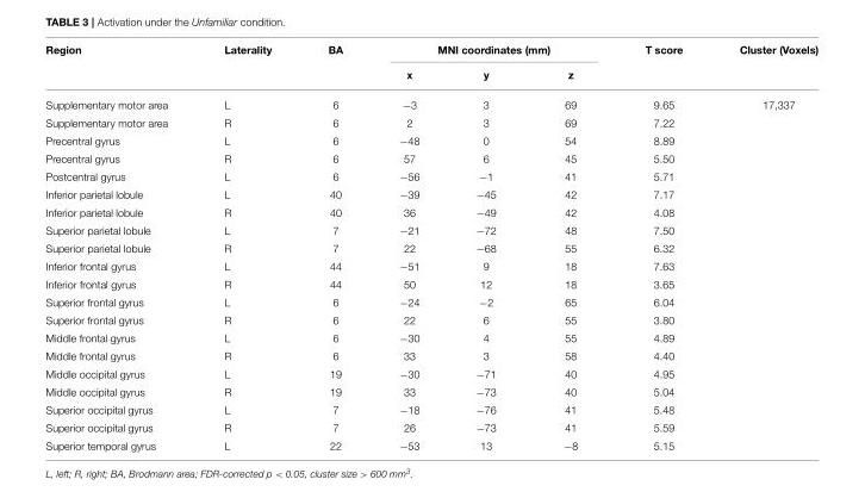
<table><thead><tr><td rowspan="2">Region</td><td rowspan="2">Laterality</td><td rowspan="2">BA</td><td colspan="3">MNI coordinates (mm)</td><td rowspan="2">T score</td><td rowspan="2">Cluster (Voxels)</td></tr><tr><td>x</td><td>y</td><td>z</td></tr></thead><tbody><tr><td>Supplementary motor area</td><td>L</td><td>6</td><td>−3</td><td>3</td><td>69</td><td>9.65</td><td>17,337</td></tr><tr><td>Supplementary motor area</td><td>R</td><td>6</td><td>2</td><td>3</td><td>69</td><td>7.22</td><td></td></tr><tr><td>Precentral gyrus</td><td>L</td><td>6</td><td>−48</td><td>0</td><td>54</td><td>8.89</td><td></td></tr><tr><td>Precentral gyrus</td><td>R</td><td>6</td><td>57</td><td>6</td><td>45</td><td>5.50</td><td></td></tr><tr><td>Postcentral gyrus</td><td>L</td><td>6</td><td>−56</td><td>−1</td><td>41</td><td>5.71</td><td></td></tr><tr><td>Inferior parietal lobule</td><td>L</td><td>40</td><td>−39</td><td>−45</td><td>42</td><td>7.17</td><td></td></tr><tr><td>Inferior parietal lobule</td><td>R</td><td>40</td><td>36</td><td>−49</td><td>42</td><td>4.08</td><td></td></tr><tr><td>Superior parietal lobule</td><td>L</td><td>7</td><td>−21</td><td>−72</td><td>48</td><td>7.50</td><td></td></tr><tr><td>Superior parietal lobule</td><td>R</td><td>7</td><td>22</td><td>−68</td><td>55</td><td>6.32</td><td></td></tr><tr><td>Inferior frontal gyrus</td><td>L</td><td>44</td><td>−51</td><td>9</td><td>18</td><td>7.63</td><td></td></tr><tr><td>Inferior frontal gyrus</td><td>R</td><td>44</td><td>50</td><td>12</td><td>18</td><td>3.65</td><td></td></tr><tr><td>Superior frontal gyrus</td><td>L</td><td>6</td><td>−24</td><td>−2</td><td>65</td><td>6.04</td><td></td></tr><tr><td>Superior frontal gyrus</td><td>R</td><td>6</td><td>22</td><td>6</td><td>55</td><td>3.80</td><td></td></tr><tr><td>Middle frontal gyrus</td><td>L</td><td>6</td><td>−30</td><td>4</td><td>55</td><td>4.89</td><td></td></tr><tr><td>Middle frontal gyrus</td><td>R</td><td>6</td><td>33</td><td>3</td><td>58</td><td>4.40</td><td></td></tr><tr><td>Middle occipital gyrus</td><td>L</td><td>19</td><td>−30</td><td>−71</td><td>40</td><td>4.95</td><td></td></tr><tr><td>Middle occipital gyrus</td><td>R</td><td>19</td><td>33</td><td>−73</td><td>40</td><td>5.04</td><td></td></tr><tr><td>Superior occipital gyrus</td><td>L</td><td>7</td><td>−18</td><td>−76</td><td>41</td><td>5.48</td><td></td></tr><tr><td>Superior occipital gyrus</td><td>R</td><td>7</td><td>26</td><td>−73</td><td>41</td><td>5.59</td><td></td></tr><tr><td>Superior temporal gyrus</td><td>L</td><td>22</td><td>−53</td><td>13</td><td>−8</td><td>5.15</td><td></td></tr></tbody></table>